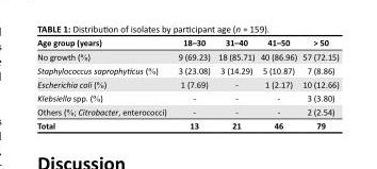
<table><thead><tr><td>Age group (years)</td><td>18–30</td><td>31–40</td><td>41–50</td><td>&gt; 50</td></tr></thead><tbody><tr><td>No growth (%)</td><td>9 (69.23)</td><td>18 (85.71)</td><td>40 (86.96)</td><td>57 (72.15)</td></tr><tr><td>Staphylococcus saprophyticus (%)</td><td>3 (23.08)</td><td>3 (14.29)</td><td>5 (10.87)</td><td>7 (8.86)</td></tr><tr><td>Escherichia coli (%)</td><td>1 (7.69)</td><td>-</td><td>1 (2.17)</td><td>10 (12.66)</td></tr><tr><td>Klebsiella spp. (%)</td><td>-</td><td>-</td><td>-</td><td>3 (3.80)</td></tr><tr><td>Others (%; Citrobacter, enterococci)</td><td>-</td><td>-</td><td>-</td><td>2 (2.54)</td></tr><tr><td>Total</td><td>13</td><td>21</td><td>46</td><td>79</td></tr></tbody></table>